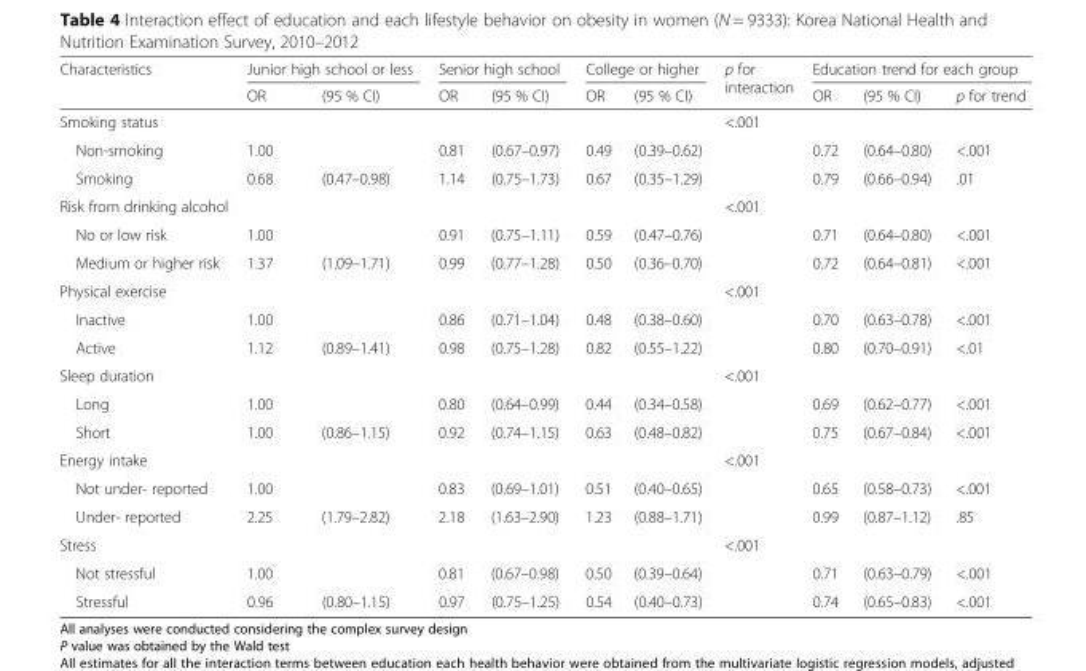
<table><thead><tr><td rowspan="2">Characteristics</td><td colspan="2">Junior high school or less</td><td colspan="2">Senior high school</td><td colspan="2">College or higher</td><td rowspan="2">p for interaction</td><td colspan="3">Education trend for each group</td></tr><tr><td>OR</td><td>(95 % CI)</td><td>OR</td><td>(95 % CI)</td><td>OR</td><td>(95 % CI)</td><td>OR</td><td>(95 % CI)</td><td>p for trend</td></tr></thead><tbody><tr><td>Smoking status</td><td></td><td></td><td></td><td></td><td></td><td></td><td>&lt;.001</td><td></td><td></td><td></td></tr><tr><td>Non-smoking</td><td>1.00</td><td></td><td>0.81</td><td>(0.67–0.97)</td><td>0.49</td><td>(0.39–0.62)</td><td></td><td>0.72</td><td>(0.64–0.80)</td><td>&lt;.001</td></tr><tr><td>Smoking</td><td>0.68</td><td>(0.47–0.98)</td><td>1.14</td><td>(0.75–1.73)</td><td>0.67</td><td>(0.35–1.29)</td><td></td><td>0.79</td><td>(0.66–0.94)</td><td>.01</td></tr><tr><td>Risk from drinking alcohol</td><td></td><td></td><td></td><td></td><td></td><td></td><td>&lt;.001</td><td></td><td></td><td></td></tr><tr><td>No or low risk</td><td>1.00</td><td></td><td>0.91</td><td>(0.75–1.11)</td><td>0.59</td><td>(0.47–0.76)</td><td></td><td>0.71</td><td>(0.64–0.80)</td><td>&lt;.001</td></tr><tr><td>Medium or higher risk</td><td>1.37</td><td>(1.09–1.71)</td><td>0.99</td><td>(0.77–1.28)</td><td>0.50</td><td>(0.36–0.70)</td><td></td><td>0.72</td><td>(0.64–0.81)</td><td>&lt;.001</td></tr><tr><td>Physical exercise</td><td></td><td></td><td></td><td></td><td></td><td></td><td>&lt;.001</td><td></td><td></td><td></td></tr><tr><td>Inactive</td><td>1.00</td><td></td><td>0.86</td><td>(0.71–1.04)</td><td>0.48</td><td>(0.38–0.60)</td><td></td><td>0.70</td><td>(0.63–0.78)</td><td>&lt;.001</td></tr><tr><td>Active</td><td>1.12</td><td>(0.89–1.41)</td><td>0.98</td><td>(0.75–1.28)</td><td>0.82</td><td>(0.55–1.22)</td><td></td><td>0.80</td><td>(0.70–0.91)</td><td>&lt;.01</td></tr><tr><td>Sleep duration</td><td></td><td></td><td></td><td></td><td></td><td></td><td>&lt;.001</td><td></td><td></td><td></td></tr><tr><td>Long</td><td>1.00</td><td></td><td>0.80</td><td>(0.64–0.99)</td><td>0.44</td><td>(0.34–0.58)</td><td></td><td>0.69</td><td>(0.62–0.77)</td><td>&lt;.001</td></tr><tr><td>Short</td><td>1.00</td><td>(0.86–1.15)</td><td>0.92</td><td>(0.74–1.15)</td><td>0.63</td><td>(0.48–0.82)</td><td></td><td>0.75</td><td>(0.67–0.84)</td><td>&lt;.001</td></tr><tr><td>Energy intake</td><td></td><td></td><td></td><td></td><td></td><td></td><td>&lt;.001</td><td></td><td></td><td></td></tr><tr><td>Not under- reported</td><td>1.00</td><td></td><td>0.83</td><td>(0.69–1.01)</td><td>0.51</td><td>(0.40–0.65)</td><td></td><td>0.65</td><td>(0.58–0.73)</td><td>&lt;.001</td></tr><tr><td>Under- reported</td><td>2.25</td><td>(1.79–2.82)</td><td>2.18</td><td>(1.63–2.90)</td><td>1.23</td><td>(0.88–1.71)</td><td></td><td>0.99</td><td>(0.87–1.12)</td><td>.85</td></tr><tr><td>Stress</td><td></td><td></td><td></td><td></td><td></td><td></td><td>&lt;.001</td><td></td><td></td><td></td></tr><tr><td>Not stressful</td><td>1.00</td><td></td><td>0.81</td><td>(0.67–0.98)</td><td>0.50</td><td>(0.39–0.64)</td><td></td><td>0.71</td><td>(0.63–0.79)</td><td>&lt;.001</td></tr><tr><td>Stressful</td><td>0.96</td><td>(0.80–1.15)</td><td>0.97</td><td>(0.75–1.25)</td><td>0.54</td><td>(0.40–0.73)</td><td></td><td>0.74</td><td>(0.65–0.83)</td><td>&lt;.001</td></tr></tbody></table>